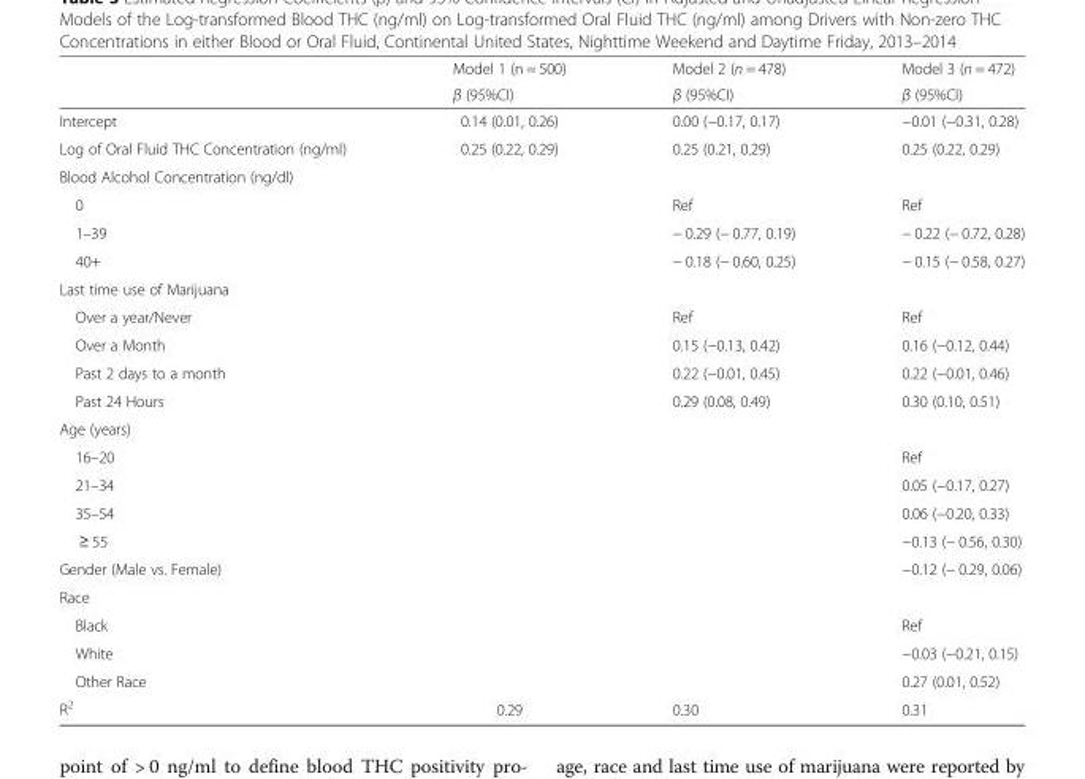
<table><thead><tr><td rowspan="2"></td><td rowspan="2">Model 1 (n = 500) β (95%CI)</td><td rowspan="2">Model 2 (n = 478) β (95%CI)</td><td rowspan="2">Model 3 (n = 472) β (95%CI)</td></tr><tr></tr></thead><tbody><tr><td>Intercept</td><td>0.14 (0.01, 0.26)</td><td>0.00 (−0.17, 0.17)</td><td>−0.01 (−0.31, 0.28)</td></tr><tr><td>Log of Oral Fluid THC Concentration (ng/ml)</td><td>0.25 (0.22, 0.29)</td><td>0.25 (0.21, 0.29)</td><td>0.25 (0.22, 0.29)</td></tr><tr><td colspan="4">Blood Alcohol Concentration (ng/dl)</td></tr><tr><td>0</td><td></td><td>Ref</td><td>Ref</td></tr><tr><td>1–39</td><td></td><td>− 0.29 (− 0.77, 0.19)</td><td>− 0.22 (− 0.72, 0.28)</td></tr><tr><td>40+</td><td></td><td>− 0.18 (− 0.60, 0.25)</td><td>− 0.15 (− 0.58, 0.27)</td></tr><tr><td colspan="4">Last time use of Marijuana</td></tr><tr><td>Over a year/Never</td><td></td><td>Ref</td><td>Ref</td></tr><tr><td>Over a Month</td><td></td><td>0.15 (−0.13, 0.42)</td><td>0.16 (−0.12, 0.44)</td></tr><tr><td>Past 2 days to a month</td><td></td><td>0.22 (−0.01, 0.45)</td><td>0.22 (−0.01, 0.46)</td></tr><tr><td>Past 24 Hours</td><td></td><td>0.29 (0.08, 0.49)</td><td>0.30 (0.10, 0.51)</td></tr><tr><td colspan="4">Age (years)</td></tr><tr><td>16–20</td><td></td><td></td><td>Ref</td></tr><tr><td>21–34</td><td></td><td></td><td>0.05 (−0.17, 0.27)</td></tr><tr><td>35–54</td><td></td><td></td><td>0.06 (−0.20, 0.33)</td></tr><tr><td>≥ 55</td><td></td><td></td><td>−0.13 (− 0.56, 0.30)</td></tr><tr><td>Gender (Male vs. Female)</td><td></td><td></td><td>−0.12 (− 0.29, 0.06)</td></tr><tr><td colspan="4">Race</td></tr><tr><td>Black</td><td></td><td></td><td>Ref</td></tr><tr><td>White</td><td></td><td></td><td>−0.03 (−0.21, 0.15)</td></tr><tr><td>Other Race</td><td></td><td></td><td>0.27 (0.01, 0.52)</td></tr><tr><td>R<sup>2</sup></td><td>0.29</td><td>0.30</td><td>0.31</td></tr></tbody></table>